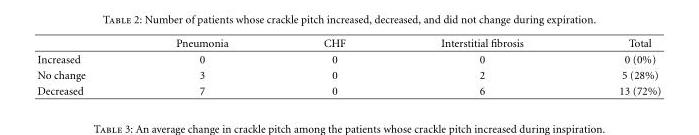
<table><thead><tr><td></td><td>Pneumonia</td><td>CHF</td><td>Interstitial fibrosis</td><td>Total</td></tr></thead><tbody><tr><td>Increased</td><td>0</td><td>0</td><td>0</td><td>0 (0%)</td></tr><tr><td>No change</td><td>3</td><td>0</td><td>2</td><td>5 (28%)</td></tr><tr><td>Decreased</td><td>7</td><td>0</td><td>6</td><td>13 (72%)</td></tr></tbody></table>